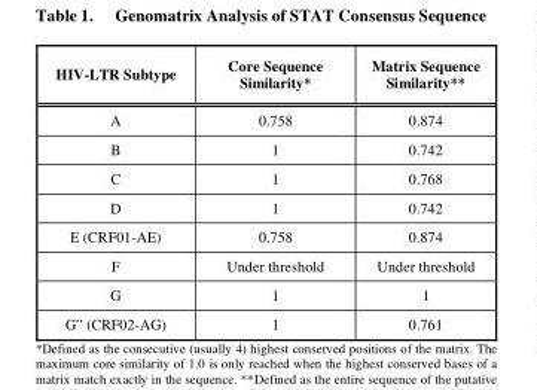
<table><thead><tr><td>HIV-LTR Subtype</td><td>Core Sequence Similarity*</td><td>Matrix Sequence Similarity**</td></tr></thead><tbody><tr><td>A</td><td>0.758</td><td>0.874</td></tr><tr><td>B</td><td>1</td><td>0.742</td></tr><tr><td>C</td><td>1</td><td>0.768</td></tr><tr><td>D</td><td>1</td><td>0.742</td></tr><tr><td>E (CRF01-AE)</td><td>0.758</td><td>0.874</td></tr><tr><td>F</td><td>Under threshold</td><td>Under threshold</td></tr><tr><td>G</td><td>1</td><td>1</td></tr><tr><td>G” (CRF02-AG)</td><td>1</td><td>0.761</td></tr></tbody></table>